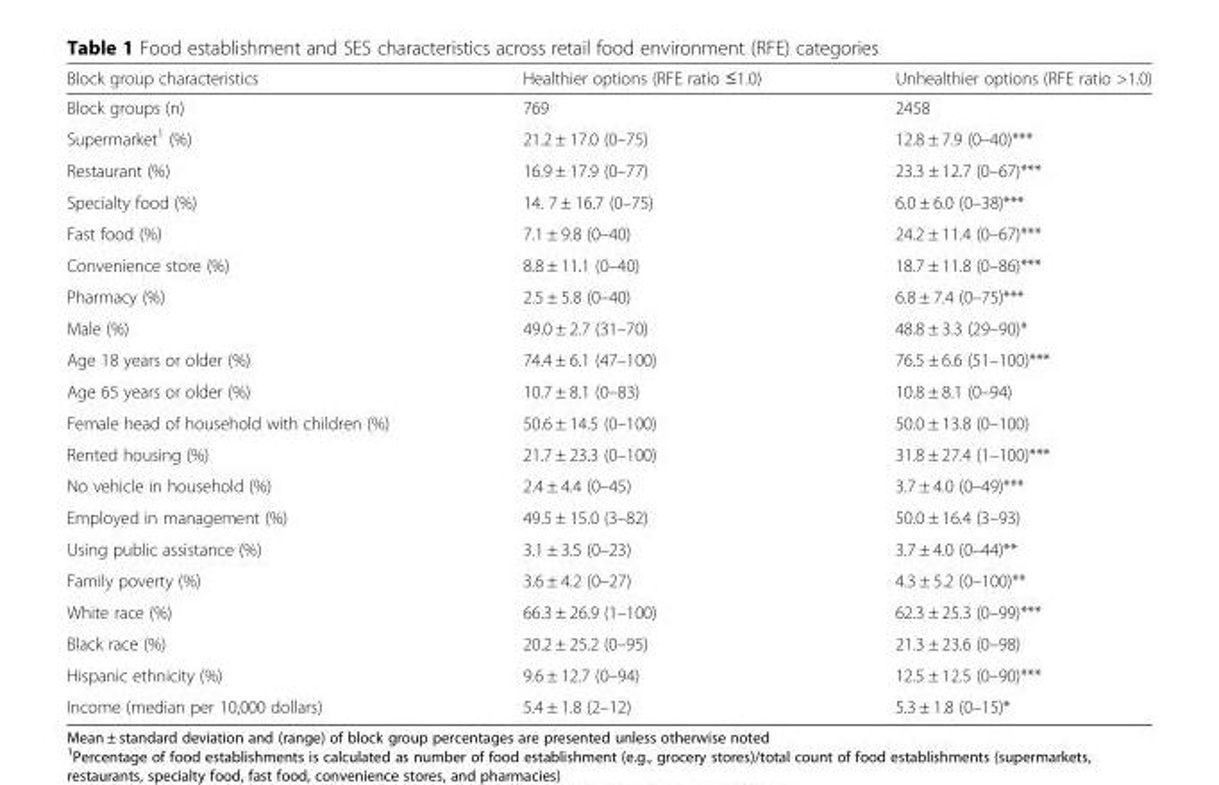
<table><thead><tr><td>Block group characteristics</td><td>Healthier options (RFE ratio ≤1.0)</td><td>Unhealthier options (RFE ratio &gt;1.0)</td></tr></thead><tbody><tr><td>Block groups (n)</td><td>769</td><td>2458</td></tr><tr><td>Supermarket<sup>1</sup> (%)</td><td>21.2 ± 17.0 (0–75)</td><td>12.8 ± 7.9 (0–40)***</td></tr><tr><td>Restaurant (%)</td><td>16.9 ± 17.9 (0–77)</td><td>23.3 ± 12.7 (0–67)***</td></tr><tr><td>Specialty food (%)</td><td>14. 7 ± 16.7 (0–75)</td><td>6.0 ± 6.0 (0–38)***</td></tr><tr><td>Fast food (%)</td><td>7.1 ± 9.8 (0–40)</td><td>24.2 ± 11.4 (0–67)***</td></tr><tr><td>Convenience store (%)</td><td>8.8 ± 11.1 (0–40)</td><td>18.7 ± 11.8 (0–86)***</td></tr><tr><td>Pharmacy (%)</td><td>2.5 ± 5.8 (0–40)</td><td>6.8 ± 7.4 (0–75)***</td></tr><tr><td>Male (%)</td><td>49.0 ± 2.7 (31–70)</td><td>48.8 ± 3.3 (29–90)*</td></tr><tr><td>Age 18 years or older (%)</td><td>74.4 ± 6.1 (47–100)</td><td>76.5 ± 6.6 (51–100)***</td></tr><tr><td>Age 65 years or older (%)</td><td>10.7 ± 8.1 (0–83)</td><td>10.8 ± 8.1 (0–94)</td></tr><tr><td>Female head of household with children (%)</td><td>50.6 ± 14.5 (0–100)</td><td>50.0 ± 13.8 (0–100)</td></tr><tr><td>Rented housing (%)</td><td>21.7 ± 23.3 (0–100)</td><td>31.8 ± 27.4 (1–100)***</td></tr><tr><td>No vehicle in household (%)</td><td>2.4 ± 4.4 (0–45)</td><td>3.7 ± 4.0 (0–49)***</td></tr><tr><td>Employed in management (%)</td><td>49.5 ± 15.0 (3–82)</td><td>50.0 ± 16.4 (3–93)</td></tr><tr><td>Using public assistance (%)</td><td>3.1 ± 3.5 (0–23)</td><td>3.7 ± 4.0 (0–44)**</td></tr><tr><td>Family poverty (%)</td><td>3.6 ± 4.2 (0–27)</td><td>4.3 ± 5.2 (0–100)**</td></tr><tr><td>White race (%)</td><td>66.3 ± 26.9 (1–100)</td><td>62.3 ± 25.3 (0–99)***</td></tr><tr><td>Black race (%)</td><td>20.2 ± 25.2 (0–95)</td><td>21.3 ± 23.6 (0–98)</td></tr><tr><td>Hispanic ethnicity (%)</td><td>9.6 ± 12.7 (0–94)</td><td>12.5 ± 12.5 (0–90)***</td></tr><tr><td>Income (median per 10,000 dollars)</td><td>5.4 ± 1.8 (2–12)</td><td>5.3 ± 1.8 (0–15)*</td></tr></tbody></table>